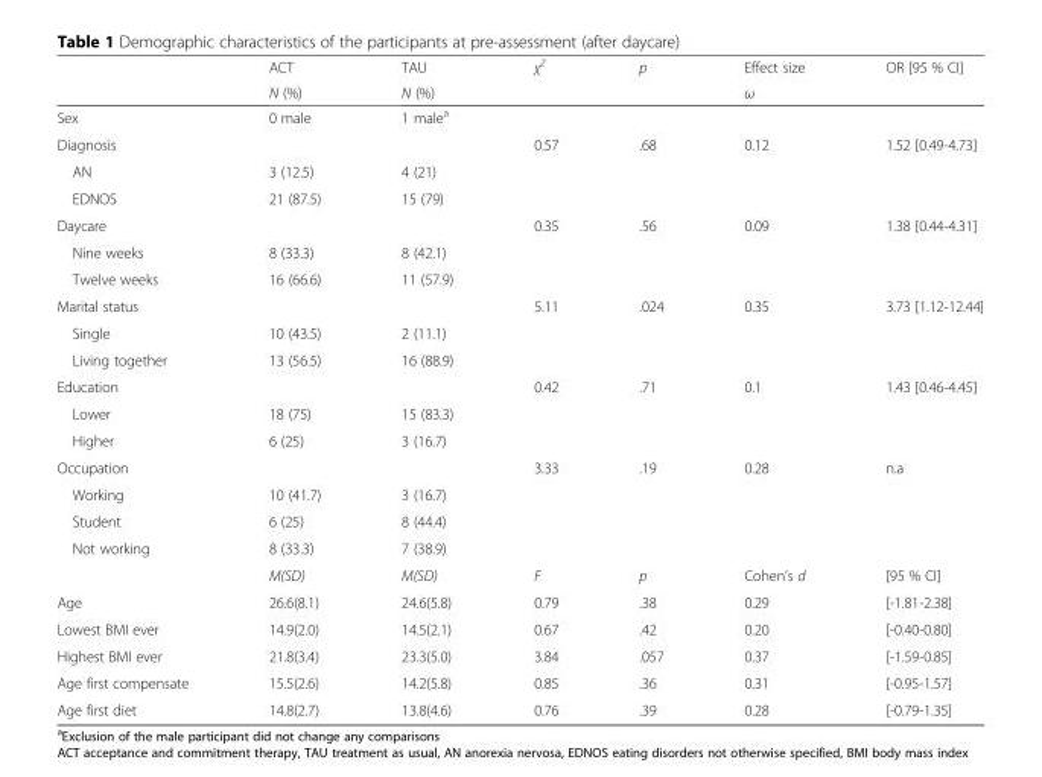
<table><thead><tr><td rowspan="2"></td><td rowspan="2">ACT N (%)</td><td rowspan="2">TAU N (%)</td><td rowspan="2">χ<sup>2</sup></td><td rowspan="2">p</td><td rowspan="2">Effect size ω</td><td rowspan="2">OR [95 % CI]</td></tr><tr></tr></thead><tbody><tr><td>Sex</td><td>0 male</td><td>1 male<sup>a</sup></td><td></td><td></td><td></td><td></td></tr><tr><td>Diagnosis</td><td></td><td></td><td>0.57</td><td>.68</td><td>0.12</td><td>1.52 [0.49-4.73]</td></tr><tr><td>AN</td><td>3 (12.5)</td><td>4 (21)</td><td></td><td></td><td></td><td></td></tr><tr><td>EDNOS</td><td>21 (87.5)</td><td>15 (79)</td><td></td><td></td><td></td><td></td></tr><tr><td>Daycare</td><td></td><td></td><td>0.35</td><td>.56</td><td>0.09</td><td>1.38 [0.44-4.31]</td></tr><tr><td>Nine weeks</td><td>8 (33.3)</td><td>8 (42.1)</td><td></td><td></td><td></td><td></td></tr><tr><td>Twelve weeks</td><td>16 (66.6)</td><td>11 (57.9)</td><td></td><td></td><td></td><td></td></tr><tr><td>Marital status</td><td></td><td></td><td>5.11</td><td>.024</td><td>0.35</td><td>3.73 [1.12-12.44]</td></tr><tr><td>Single</td><td>10 (43.5)</td><td>2 (11.1)</td><td></td><td></td><td></td><td></td></tr><tr><td>Living together</td><td>13 (56.5)</td><td>16 (88.9)</td><td></td><td></td><td></td><td></td></tr><tr><td>Education</td><td></td><td></td><td>0.42</td><td>.71</td><td>0.1</td><td>1.43 [0.46-4.45]</td></tr><tr><td>Lower</td><td>18 (75)</td><td>15 (83.3)</td><td></td><td></td><td></td><td></td></tr><tr><td>Higher</td><td>6 (25)</td><td>3 (16.7)</td><td></td><td></td><td></td><td></td></tr><tr><td>Occupation</td><td></td><td></td><td>3.33</td><td>.19</td><td>0.28</td><td>n.a</td></tr><tr><td>Working</td><td>10 (41.7)</td><td>3 (16.7)</td><td></td><td></td><td></td><td></td></tr><tr><td>Student</td><td>6 (25)</td><td>8 (44.4)</td><td></td><td></td><td></td><td></td></tr><tr><td rowspan="2">Not working</td><td>8 (33.3)</td><td>7 (38.9)</td><td></td><td></td><td></td><td></td></tr><tr><td>M(SD)</td><td>M(SD)</td><td>F</td><td>p</td><td>Cohen’s d</td><td>[95 % CI]</td></tr><tr><td>Age</td><td>26.6(8.1)</td><td>24.6(5.8)</td><td>0.79</td><td>.38</td><td>0.29</td><td>[-1.81-2.38]</td></tr><tr><td>Lowest BMI ever</td><td>14.9(2.0)</td><td>14.5(2.1)</td><td>0.67</td><td>.42</td><td>0.20</td><td>[-0.40-0.80]</td></tr><tr><td>Highest BMI ever</td><td>21.8(3.4)</td><td>23.3(5.0)</td><td>3.84</td><td>.057</td><td>0.37</td><td>[-1.59-0.85]</td></tr><tr><td>Age first compensate</td><td>15.5(2.6)</td><td>14.2(5.8)</td><td>0.85</td><td>.36</td><td>0.31</td><td>[-0.95-1.57]</td></tr><tr><td>Age first diet</td><td>14.8(2.7)</td><td>13.8(4.6)</td><td>0.76</td><td>.39</td><td>0.28</td><td>[-0.79-1.35]</td></tr></tbody></table>